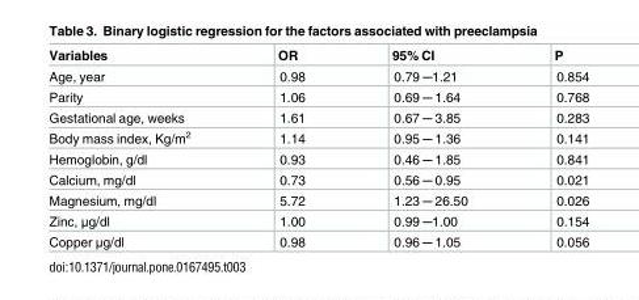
<table><thead><tr><td>Variables</td><td>OR</td><td>95% CI</td><td>P</td></tr></thead><tbody><tr><td>Age, year</td><td>0.98</td><td>0.79 ─1.21</td><td>0.854</td></tr><tr><td>Parity</td><td>1.06</td><td>0.69 ─ 1.64</td><td>0.768</td></tr><tr><td>Gestational age, weeks</td><td>1.61</td><td>0.67 ─ 3.85</td><td>0.283</td></tr><tr><td>Body mass index, Kg/m<sup>2</sup></td><td>1.14</td><td>0.95 ─ 1.36</td><td>0.141</td></tr><tr><td>Hemoglobin, g/dl</td><td>0.93</td><td>0.46 ─ 1.85</td><td>0.841</td></tr><tr><td>Calcium, mg/dl</td><td>0.73</td><td>0.56 ─ 0.95</td><td>0.021</td></tr><tr><td>Magnesium, mg/dl</td><td>5.72</td><td>1.23 ─ 26.50</td><td>0.026</td></tr><tr><td>Zinc, μg/dl</td><td>1.00</td><td>0.99 ─1.00</td><td>0.154</td></tr><tr><td>Copper μg/dl</td><td>0.98</td><td>0.96 ─ 1.05</td><td>0.056</td></tr></tbody></table>